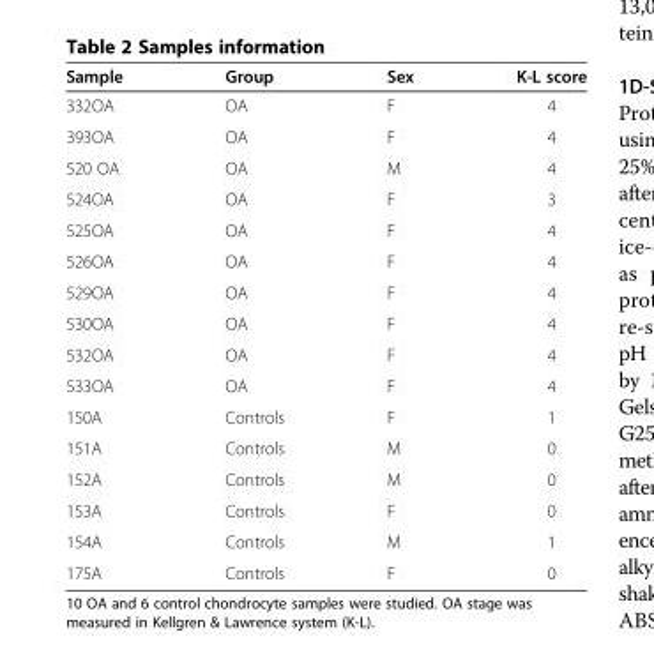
<table><thead><tr><td>Sample</td><td>Group</td><td>Sex</td><td>K-L score</td></tr></thead><tbody><tr><td>332OA</td><td>OA</td><td>F</td><td>4</td></tr><tr><td>393OA</td><td>OA</td><td>F</td><td>4</td></tr><tr><td>520 ΟΑ</td><td>OA</td><td>M</td><td>4</td></tr><tr><td>524OA</td><td>OA</td><td>F</td><td>3</td></tr><tr><td>525OA</td><td>OA</td><td>F</td><td>4</td></tr><tr><td>526OA</td><td>OA</td><td>F</td><td>4</td></tr><tr><td>529OA</td><td>OA</td><td>F</td><td>4</td></tr><tr><td>530OA</td><td>OA</td><td>F</td><td>4</td></tr><tr><td>532OA</td><td>OA</td><td>F</td><td>4</td></tr><tr><td>533OA</td><td>OA</td><td>F</td><td>4</td></tr><tr><td>150Α</td><td>Controls</td><td>F</td><td>1</td></tr><tr><td>151Α</td><td>Controls</td><td>M</td><td>0</td></tr><tr><td>152Α</td><td>Controls</td><td>M</td><td>0</td></tr><tr><td>153Α</td><td>Controls</td><td>F</td><td>0</td></tr><tr><td>154Α</td><td>Controls</td><td>M</td><td>1</td></tr><tr><td>175Α</td><td>Controls</td><td>F</td><td>0</td></tr></tbody></table>